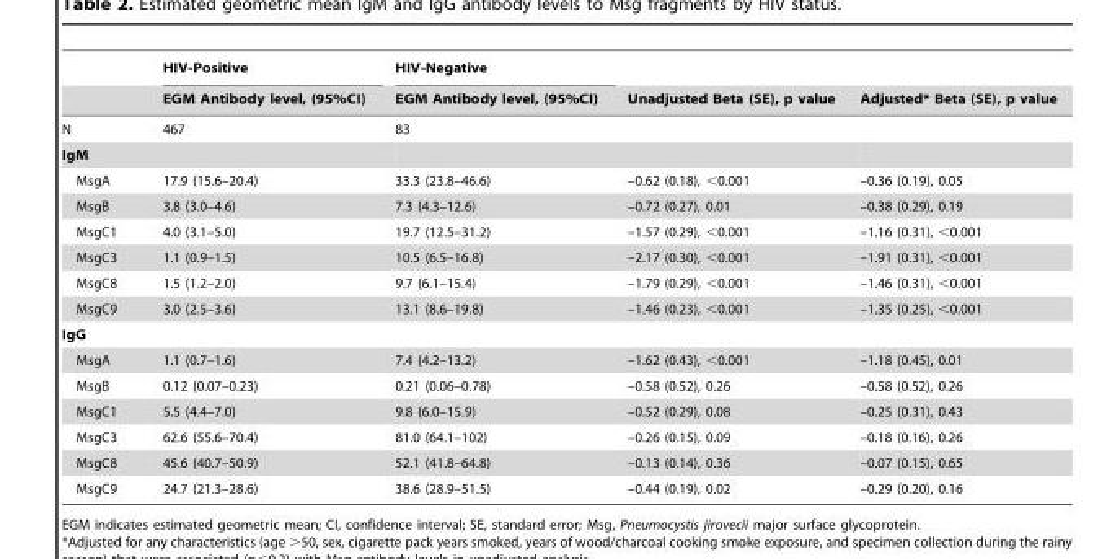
<table><thead><tr><td rowspan="2"></td><td rowspan="2">HIV-Positive EGM Antibody level, (95%CI)</td><td rowspan="2">HIV-Negative EGM Antibody level, (95%CI)</td><td rowspan="2">Unadjusted Beta (SE), p value</td><td rowspan="2">Adjusted* Beta (SE), p value</td></tr><tr></tr></thead><tbody><tr><td>N</td><td>467</td><td>83</td><td></td><td></td></tr><tr><td colspan="5">IgM</td></tr><tr><td>MsgA</td><td>17.9 (15.6–20.4)</td><td>33.3 (23.8–46.6)</td><td>–0.62 (0.18), &lt;0.001</td><td>–0.36 (0.19), 0.05</td></tr><tr><td>MsgB</td><td>3.8 (3.0–4.6)</td><td>7.3 (4.3–12.6)</td><td>–0.72 (0.27), 0.01</td><td>–0.38 (0.29), 0.19</td></tr><tr><td>MsgC1</td><td>4.0 (3.1–5.0)</td><td>19.7 (12.5–31.2)</td><td>–1.57 (0.29), &lt;0.001</td><td>–1.16 (0.31), &lt;0.001</td></tr><tr><td>MsgC3</td><td>1.1 (0.9–1.5)</td><td>10.5 (6.5–16.8)</td><td>–2.17 (0.30), &lt;0.001</td><td>–1.91 (0.31), &lt;0.001</td></tr><tr><td>MsgC8</td><td>1.5 (1.2–2.0)</td><td>9.7 (6.1–15.4)</td><td>–1.79 (0.29), &lt;0.001</td><td>–1.46 (0.31), &lt;0.001</td></tr><tr><td>MsgC9</td><td>3.0 (2.5–3.6)</td><td>13.1 (8.6–19.8)</td><td>–1.46 (0.23), &lt;0.001</td><td>–1.35 (0.25), &lt;0.001</td></tr><tr><td colspan="5">IgG</td></tr><tr><td>MsgA</td><td>1.1 (0.7–1.6)</td><td>7.4 (4.2–13.2)</td><td>–1.62 (0.43), &lt;0.001</td><td>–1.18 (0.45), 0.01</td></tr><tr><td>MsgB</td><td>0.12 (0.07–0.23)</td><td>0.21 (0.06–0.78)</td><td>–0.58 (0.52), 0.26</td><td>–0.58 (0.52), 0.26</td></tr><tr><td>MsgC1</td><td>5.5 (4.4–7.0)</td><td>9.8 (6.0–15.9)</td><td>–0.52 (0.29), 0.08</td><td>–0.25 (0.31), 0.43</td></tr><tr><td>MsgC3</td><td>62.6 (55.6–70.4)</td><td>81.0 (64.1–102)</td><td>–0.26 (0.15), 0.09</td><td>–0.18 (0.16), 0.26</td></tr><tr><td>MsgC8</td><td>45.6 (40.7–50.9)</td><td>52.1 (41.8–64.8)</td><td>–0.13 (0.14), 0.36</td><td>–0.07 (0.15), 0.65</td></tr><tr><td>MsgC9</td><td>24.7 (21.3–28.6)</td><td>38.6 (28.9–51.5)</td><td>–0.44 (0.19), 0.02</td><td>–0.29 (0.20), 0.16</td></tr></tbody></table>